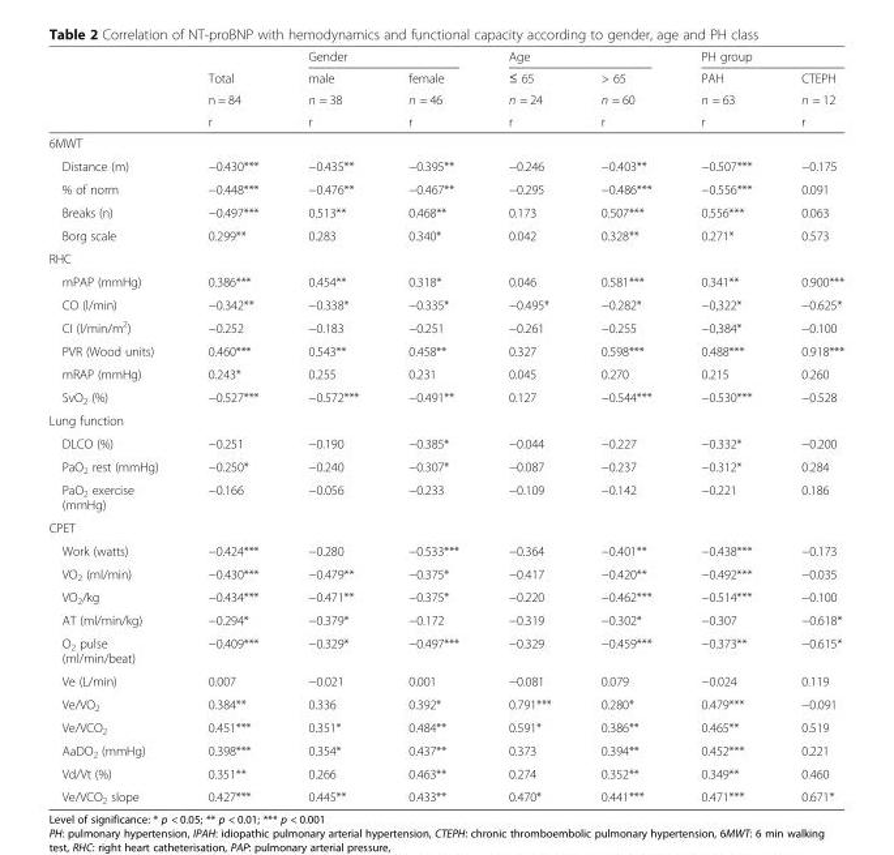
<table><thead><tr><td rowspan="4"></td><td rowspan="4">Total n = 84 r</td><td colspan="2">Gender</td><td colspan="2">Age</td><td colspan="2">PH group</td></tr><tr><td rowspan="3">male n = 38 r</td><td rowspan="3">female n = 46 r</td><td rowspan="3">≤ 65 n = 24 r</td><td rowspan="3">&gt; 65 n = 60 r</td><td rowspan="3">PAH n = 63 r</td><td rowspan="3">CTEPH n = 12 r</td></tr><tr></tr><tr></tr></thead><tbody><tr><td colspan="8">6MWT</td></tr><tr><td>Distance (m)</td><td>−0.430***</td><td>−0.435**</td><td>−0.395**</td><td>−0.246</td><td>−0.403**</td><td>−0.507***</td><td>−0.175</td></tr><tr><td>% of norm</td><td>−0.448***</td><td>−0.476**</td><td>−0.467**</td><td>−0.295</td><td>−0.486***</td><td>−0.556***</td><td>0.091</td></tr><tr><td>Breaks (n)</td><td>−0.497***</td><td>0.513**</td><td>0.468**</td><td>0.173</td><td>0.507***</td><td>0.556***</td><td>0.063</td></tr><tr><td>Borg scale</td><td>0.299**</td><td>0.283</td><td>0.340*</td><td>0.042</td><td>0.328**</td><td>0.271*</td><td>0.573</td></tr><tr><td colspan="8">RHC</td></tr><tr><td>mPAP (mmHg)</td><td>0.386***</td><td>0.454**</td><td>0.318*</td><td>0.046</td><td>0.581***</td><td>0.341**</td><td>0.900***</td></tr><tr><td>CO (l/min)</td><td>−0.342**</td><td>−0.338*</td><td>−0.335*</td><td>−0.495*</td><td>−0.282*</td><td>−0,322*</td><td>−0.625*</td></tr><tr><td>CI (l/min/m<sup>2</sup>)</td><td>−0.252</td><td>−0.183</td><td>−0.251</td><td>−0.261</td><td>−0.255</td><td>−0,384*</td><td>−0.100</td></tr><tr><td>PVR (Wood units)</td><td>0.460***</td><td>0.543**</td><td>0.458**</td><td>0.327</td><td>0.598***</td><td>0.488***</td><td>0.918***</td></tr><tr><td>mRAP (mmHg)</td><td>0.243*</td><td>0.255</td><td>0.231</td><td>0.045</td><td>0.270</td><td>0.215</td><td>0.260</td></tr><tr><td>SvO<sub>2</sub> (%)</td><td>−0.527***</td><td>−0.572***</td><td>−0.491**</td><td>0.127</td><td>−0.544***</td><td>−0.530***</td><td>−0.528</td></tr><tr><td colspan="8">Lung function</td></tr><tr><td>DLCO (%)</td><td>−0.251</td><td>−0.190</td><td>−0.385*</td><td>−0.044</td><td>−0.227</td><td>−0.332*</td><td>−0.200</td></tr><tr><td>PaO<sub>2</sub> rest (mmHg)</td><td>−0.250*</td><td>−0.240</td><td>−0.307*</td><td>−0.087</td><td>−0.237</td><td>−0.312*</td><td>0.284</td></tr><tr><td>PaO<sub>2</sub> exercise (mmHg)</td><td>−0.166</td><td>−0.056</td><td>−0.233</td><td>−0.109</td><td>−0.142</td><td>−0.221</td><td>0.186</td></tr><tr><td colspan="8">CPET</td></tr><tr><td>Work (watts)</td><td>−0.424***</td><td>−0.280</td><td>−0.533***</td><td>−0.364</td><td>−0.401**</td><td>−0.438***</td><td>−0.173</td></tr><tr><td>VO<sub>2</sub> (ml/min)</td><td>−0.430***</td><td>−0.479**</td><td>−0.375*</td><td>−0.417</td><td>−0.420**</td><td>−0.492***</td><td>−0.035</td></tr><tr><td>VO<sub>2</sub>/kg</td><td>−0.434***</td><td>−0.471**</td><td>−0.375*</td><td>−0.220</td><td>−0.462***</td><td>−0.514***</td><td>−0.100</td></tr><tr><td>AT (ml/min/kg)</td><td>−0.294*</td><td>−0.379*</td><td>−0.172</td><td>−0.319</td><td>−0.302*</td><td>−0.307</td><td>−0.618*</td></tr><tr><td>O<sub>2</sub> pulse (ml/min/beat)</td><td>−0.409***</td><td>−0.329*</td><td>−0.497***</td><td>−0.329</td><td>−0.459***</td><td>−0.373**</td><td>−0.615*</td></tr><tr><td>Ve (L/min)</td><td>0.007</td><td>−0.021</td><td>0.001</td><td>−0.081</td><td>0.079</td><td>−0.024</td><td>0.119</td></tr><tr><td>Ve/VO<sub>2</sub></td><td>0.384**</td><td>0.336</td><td>0.392*</td><td>0.791***</td><td>0.280*</td><td>0.479***</td><td>−0.091</td></tr><tr><td>Ve/VCO<sub>2</sub></td><td>0.451***</td><td>0.351*</td><td>0.484**</td><td>0.591*</td><td>0.386**</td><td>0.465**</td><td>0.519</td></tr><tr><td>AaDO<sub>2</sub> (mmHg)</td><td>0.398***</td><td>0.354*</td><td>0.437**</td><td>0.373</td><td>0.394**</td><td>0.452***</td><td>0.221</td></tr><tr><td>Vd/Vt (%)</td><td>0.351**</td><td>0.266</td><td>0.463**</td><td>0.274</td><td>0.352**</td><td>0.349**</td><td>0.460</td></tr><tr><td>Ve/VCO<sub>2</sub> slope</td><td>0.427***</td><td>0.445**</td><td>0.433**</td><td>0.470*</td><td>0.441***</td><td>0.471***</td><td>0.671*</td></tr></tbody></table>